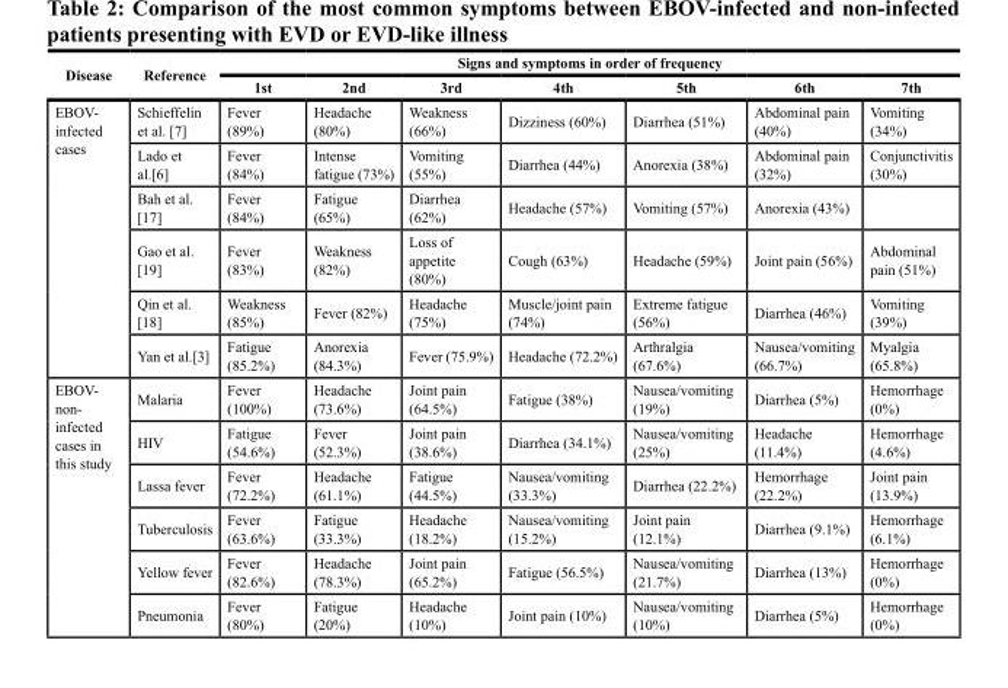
<table><thead><tr><td rowspan="2">Disease</td><td rowspan="2">Reference</td><td colspan="7">Signs and symptoms in order of frequency</td></tr><tr><td>1st</td><td>2nd</td><td>3rd</td><td>4th</td><td>5th</td><td>6th</td><td>7th</td></tr></thead><tbody><tr><td rowspan="6">EBOV- infected cases</td><td>Schieffelin et al. [7]</td><td>Fever (89%)</td><td>Headache (80%)</td><td>Weakness (66%)</td><td>Dizziness (60%)</td><td>Diarrhea (51%)</td><td>Abdominal pain (40%)</td><td>Vomiting (34%)</td></tr><tr><td>Lado et al.[6]</td><td>Fever (84%)</td><td>Intense fatigue (73%)</td><td>Vomiting (55%)</td><td>Diarrhea (44%)</td><td>Anorexia (38%)</td><td>Abdominal pain (32%)</td><td>Conjunctivitis (30%)</td></tr><tr><td>Bah et al. [17]</td><td>Fever (84%)</td><td>Fatigue (65%)</td><td>Diarrhea (62%)</td><td>Headache (57%)</td><td>Vomiting (57%)</td><td>Anorexia (43%)</td><td></td></tr><tr><td>Gao et al. [19]</td><td>Fever (83%)</td><td>Weakness (82%)</td><td>Loss of appetite (80%)</td><td>Cough (63%)</td><td>Headache (59%)</td><td>Joint pain (56%)</td><td>Abdominal pain (51%)</td></tr><tr><td>Qin et al. [18]</td><td>Weakness (85%)</td><td>Fever (82%)</td><td>Headache (75%)</td><td>Muscle/joint pain (74%)</td><td>Extreme fatigue (56%)</td><td>Diarrhea (46%)</td><td>Vomiting (39%)</td></tr><tr><td>Yan et al.[3]</td><td>Fatigue (85.2%)</td><td>Anorexia (84.3%)</td><td>Fever (75.9%)</td><td>Headache (72.2%)</td><td>Arthralgia (67.6%)</td><td>Nausea/vomiting (66.7%)</td><td>Myalgia (65.8%)</td></tr><tr><td rowspan="6">EBOV- non- infected cases in this study</td><td>Malaria</td><td>Fever (100%)</td><td>Headache (73.6%)</td><td>Joint pain (64.5%)</td><td>Fatigue (38%)</td><td>Nausea/vomiting (19%)</td><td>Diarrhea (5%)</td><td>Hemorrhage (0%)</td></tr><tr><td>HIV</td><td>Fatigue (54.6%)</td><td>Fever (52.3%)</td><td>Joint pain (38.6%)</td><td>Diarrhea (34.1%)</td><td>Nausea/vomiting (25%)</td><td>Headache (11.4%)</td><td>Hemorrhage (4.6%)</td></tr><tr><td>Lassa fever</td><td>Fever (72.2%)</td><td>Headache (61.1%)</td><td>Fatigue (44.5%)</td><td>Nausea/vomiting (33.3%)</td><td>Diarrhea (22.2%)</td><td>Hemorrhage (22.2%)</td><td>Joint pain (13.9%)</td></tr><tr><td>Tuberculosis</td><td>Fever (63.6%)</td><td>Fatigue (33.3%)</td><td>Headache (18.2%)</td><td>Nausea/vomiting (15.2%)</td><td>Joint pain (12.1%)</td><td>Diarrhea (9.1%)</td><td>Hemorrhage (6.1%)</td></tr><tr><td>Yellow fever</td><td>Fever (82.6%)</td><td>Headache (78.3%)</td><td>Joint pain (65.2%)</td><td>Fatigue (56.5%)</td><td>Nausea/vomiting (21.7%)</td><td>Diarrhea (13%)</td><td>Hemorrhage (0%)</td></tr><tr><td>Pneumonia</td><td>Fever (80%)</td><td>Fatigue (20%)</td><td>Headache (10%)</td><td>Joint pain (10%)</td><td>Nausea/vomiting (10%)</td><td>Diarrhea (5%)</td><td>Hemorrhage (0%)</td></tr></tbody></table>